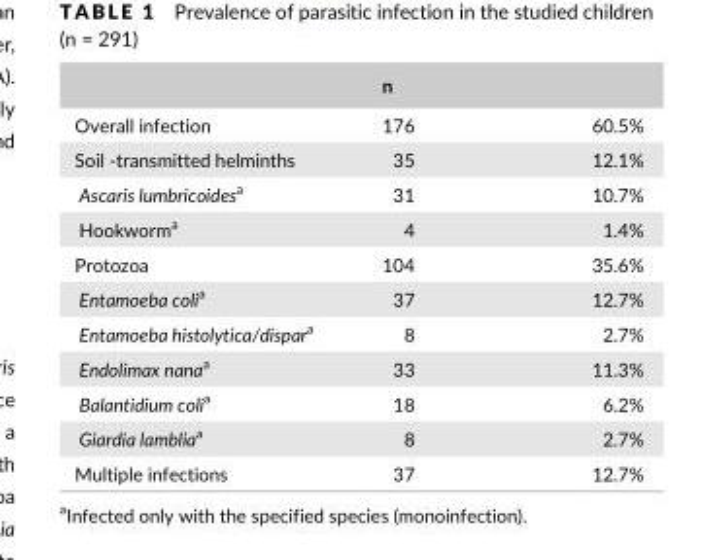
<table><thead><tr><td></td><td>n</td><td></td></tr></thead><tbody><tr><td>Overall infection</td><td>176</td><td>60.5%</td></tr><tr><td>Soil - transmitted helminths</td><td>35</td><td>12.1%</td></tr><tr><td>Ascaris lumbricoidesa</td><td>31</td><td>10.7%</td></tr><tr><td>Hookworm<sup>a</sup></td><td>4</td><td>1.4%</td></tr><tr><td>Protozoa</td><td>104</td><td>35.6%</td></tr><tr><td>Entamoeba colia</td><td>37</td><td>12.7%</td></tr><tr><td>Entamoeba histolytica/dispara</td><td>8</td><td>2.7%</td></tr><tr><td>Endolimax nanaa</td><td>33</td><td>11.3%</td></tr><tr><td>Balantidium colia</td><td>18</td><td>6.2%</td></tr><tr><td>Giardia lambliaa</td><td>8</td><td>2.7%</td></tr><tr><td>Multiple infections</td><td>37</td><td>12.7%</td></tr></tbody></table>